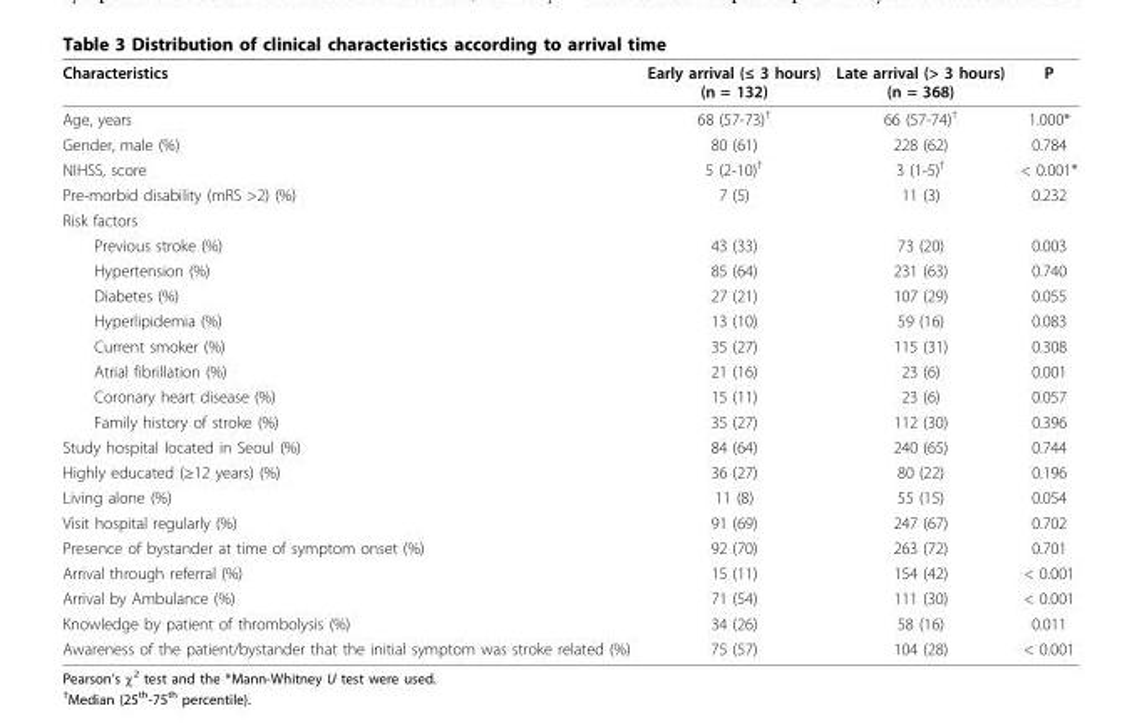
<table><thead><tr><td>Characteristics</td><td>Early arrival (≤ 3 hours) (n = 132)</td><td>Late arrival (&gt; 3 hours) (n = 368)</td><td>P</td></tr></thead><tbody><tr><td>Age, years</td><td>68 (57-73)<sup>†</sup></td><td>66 (57-74)<sup>†</sup></td><td>1.000*</td></tr><tr><td>Gender, male (%)</td><td>80 (61)</td><td>228 (62)</td><td>0.784</td></tr><tr><td>NIHSS, score</td><td>5 (2-10)<sup>†</sup></td><td>3 (1-5)<sup>†</sup></td><td>&lt; 0.001*</td></tr><tr><td>Pre-morbid disability (mRS &gt;2) (%)</td><td>7 (5)</td><td>11 (3)</td><td>0.232</td></tr><tr><td colspan="4">Risk factors</td></tr><tr><td>Previous stroke (%)</td><td>43 (33)</td><td>73 (20)</td><td>0.003</td></tr><tr><td>Hypertension (%)</td><td>85 (64)</td><td>231 (63)</td><td>0.740</td></tr><tr><td>Diabetes (%)</td><td>27 (21)</td><td>107 (29)</td><td>0.055</td></tr><tr><td>Hyperlipidemia (%)</td><td>13 (10)</td><td>59 (16)</td><td>0.083</td></tr><tr><td>Current smoker (%)</td><td>35 (27)</td><td>115 (31)</td><td>0.308</td></tr><tr><td>Atrial fibrillation (%)</td><td>21 (16)</td><td>23 (6)</td><td>0.001</td></tr><tr><td>Coronary heart disease (%)</td><td>15 (11)</td><td>23 (6)</td><td>0.057</td></tr><tr><td>Family history of stroke (%)</td><td>35 (27)</td><td>112 (30)</td><td>0.396</td></tr><tr><td>Study hospital located in Seoul (%)</td><td>84 (64)</td><td>240 (65)</td><td>0.744</td></tr><tr><td>Highly educated (≥12 years) (%)</td><td>36 (27)</td><td>80 (22)</td><td>0.196</td></tr><tr><td>Living alone (%)</td><td>11 (8)</td><td>55 (15)</td><td>0.054</td></tr><tr><td>Visit hospital regularly (%)</td><td>91 (69)</td><td>247 (67)</td><td>0.702</td></tr><tr><td>Presence of bystander at time of symptom onset (%)</td><td>92 (70)</td><td>263 (72)</td><td>0.701</td></tr><tr><td>Arrival through referral (%)</td><td>15 (11)</td><td>154 (42)</td><td>&lt; 0.001</td></tr><tr><td>Arrival by Ambulance (%)</td><td>71 (54)</td><td>111 (30)</td><td>&lt; 0.001</td></tr><tr><td>Knowledge by patient of thrombolysis (%)</td><td>34 (26)</td><td>58 (16)</td><td>0.011</td></tr><tr><td>Awareness of the patient/bystander that the initial symptom was stroke related (%)</td><td>75 (57)</td><td>104 (28)</td><td>&lt; 0.001</td></tr></tbody></table>